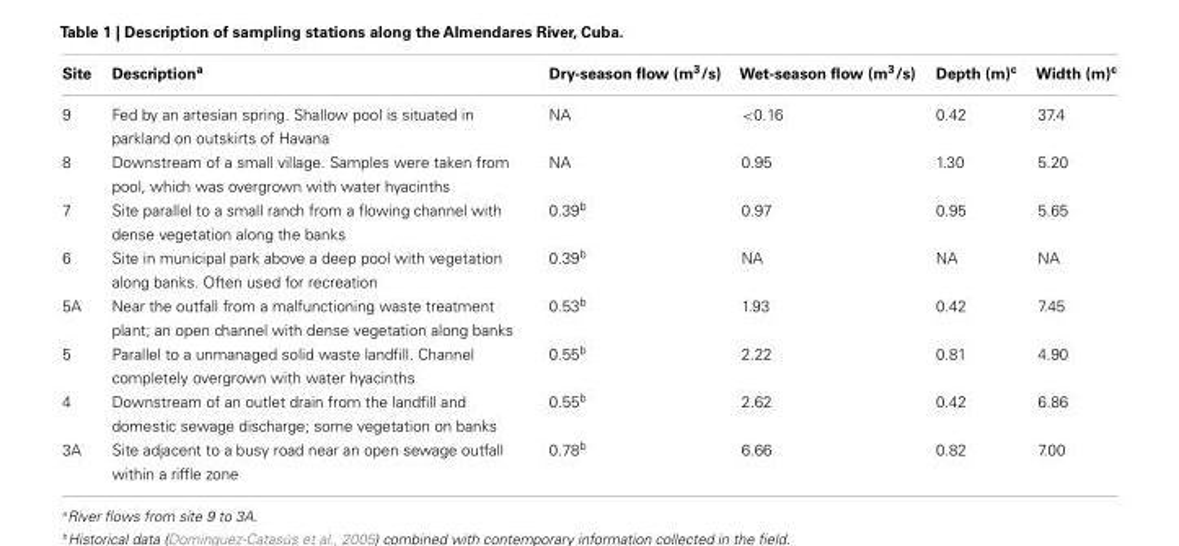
<table><thead><tr><td>Site</td><td>Description<sup>a</sup></td><td>Dry-season flow (m<sup>3</sup>/s)</td><td>Wet-season flow (m<sup>3</sup>/s)</td><td>Depth (m)<sup>c</sup></td><td>Width (m)<sup>c</sup></td></tr></thead><tbody><tr><td>9</td><td>Fed by an artesian spring. Shallow pool is situated in parkland on outskirts of Havana</td><td>NA</td><td>&lt;0.16</td><td>0.42</td><td>37.4</td></tr><tr><td>8</td><td>Downstream of a small village. Samples were taken from pool, which was overgrown with water hyacinths</td><td>NA</td><td>0.95</td><td>1.30</td><td>5.20</td></tr><tr><td>7</td><td>Site parallel to a small ranch from a flowing channel with dense vegetation along the banks</td><td>0.39<sup>b</sup></td><td>0.97</td><td>0.95</td><td>5.65</td></tr><tr><td>6</td><td>Site in municipal park above a deep pool with vegetation along banks. Often used for recreation</td><td>0.39<sup>b</sup></td><td>NA</td><td>NA</td><td>NA</td></tr><tr><td>5A</td><td>Near the outfall from a malfunctioning waste treatment plant; an open channel with dense vegetation along banks</td><td>0.53<sup>b</sup></td><td>1.93</td><td>0.42</td><td>7.45</td></tr><tr><td>5</td><td>Parallel to a unmanaged solid waste landfill. Channel completely overgrown with water hyacinths</td><td>0.55<sup>b</sup></td><td>2.22</td><td>0.81</td><td>4.90</td></tr><tr><td>4</td><td>Downstream of an outlet drain from the landfill and domestic sewage discharge; some vegetation on banks</td><td>0.55<sup>b</sup></td><td>2.62</td><td>0.42</td><td>6.86</td></tr><tr><td>3A</td><td>Site adjacent to a busy road near an open sewage outfall within a riffle zone</td><td>0.78<sup>b</sup></td><td>6.66</td><td>0.82</td><td>7.00</td></tr></tbody></table>